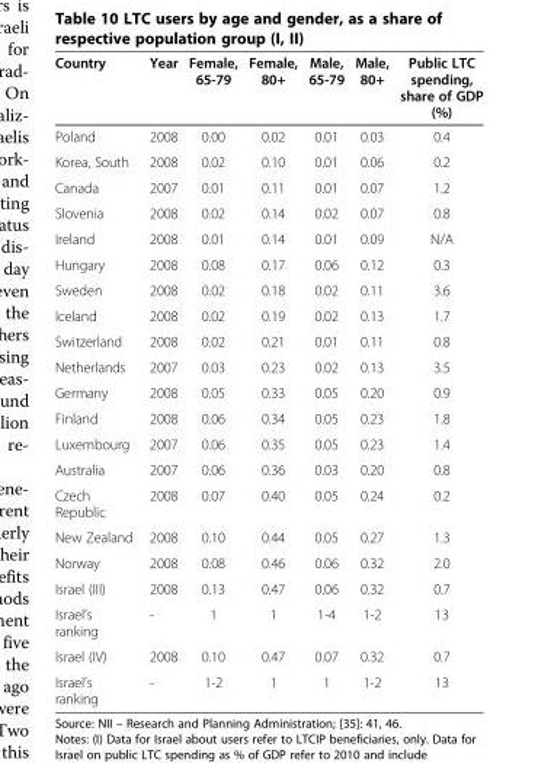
<table><thead><tr><td>Country</td><td>Year</td><td>Female, 65-79</td><td>Female, 80+</td><td>Male, 65-79</td><td>Male, 80+</td><td>Public LTC spending, share of GDP (%)</td></tr></thead><tbody><tr><td>Poland</td><td>2008</td><td>0.00</td><td>0.02</td><td>0.01</td><td>0.03</td><td>0.4</td></tr><tr><td>Korea, South</td><td>2008</td><td>0.02</td><td>0.10</td><td>0.01</td><td>0.06</td><td>0.2</td></tr><tr><td>Canada</td><td>2007</td><td>0.01</td><td>0.11</td><td>0.01</td><td>0.07</td><td>1.2</td></tr><tr><td>Slovenia</td><td>2008</td><td>0.02</td><td>0.14</td><td>0.02</td><td>0.07</td><td>0.8</td></tr><tr><td>Ireland</td><td>2008</td><td>0.01</td><td>0.14</td><td>0.01</td><td>0.09</td><td>N/A</td></tr><tr><td>Hungary</td><td>2008</td><td>0.08</td><td>0.17</td><td>0.06</td><td>0.12</td><td>0.3</td></tr><tr><td>Sweden</td><td>2008</td><td>0.02</td><td>0.18</td><td>0.02</td><td>0.11</td><td>3.6</td></tr><tr><td>Iceland</td><td>2008</td><td>0.02</td><td>0.19</td><td>0.02</td><td>0.13</td><td>1.7</td></tr><tr><td>Switzerland</td><td>2008</td><td>0.02</td><td>0.21</td><td>0.01</td><td>0.11</td><td>0.8</td></tr><tr><td>Netherlands</td><td>2007</td><td>0.03</td><td>0.23</td><td>0.02</td><td>0.13</td><td>3.5</td></tr><tr><td>Germany</td><td>2008</td><td>0.05</td><td>0.33</td><td>0.05</td><td>0.20</td><td>0.9</td></tr><tr><td>Finland</td><td>2008</td><td>0.06</td><td>0.34</td><td>0.05</td><td>0.23</td><td>1.8</td></tr><tr><td>Luxembourg</td><td>2007</td><td>0.06</td><td>0.35</td><td>0.05</td><td>0.23</td><td>1.4</td></tr><tr><td>Australia</td><td>2007</td><td>0.06</td><td>0.36</td><td>0.03</td><td>0.20</td><td>0.8</td></tr><tr><td>Czech Republic</td><td>2008</td><td>0.07</td><td>0.40</td><td>0.05</td><td>0.24</td><td>0.2</td></tr><tr><td>New Zealand</td><td>2008</td><td>0.10</td><td>0.44</td><td>0.05</td><td>0.27</td><td>1.3</td></tr><tr><td>Norway</td><td>2008</td><td>0.08</td><td>0.46</td><td>0.06</td><td>0.32</td><td>2.0</td></tr><tr><td>Israel (III)</td><td>2008</td><td>0.13</td><td>0.47</td><td>0.06</td><td>0.32</td><td>0.7</td></tr><tr><td>Israel’s ranking</td><td>-</td><td>1</td><td>1</td><td>1-4</td><td>1-2</td><td>13</td></tr><tr><td>Israel (IV)</td><td>2008</td><td>0.10</td><td>0.47</td><td>0.07</td><td>0.32</td><td>0.7</td></tr><tr><td>Israel’s ranking</td><td>-</td><td>1-2</td><td>1</td><td>1</td><td>1-2</td><td>13</td></tr></tbody></table>